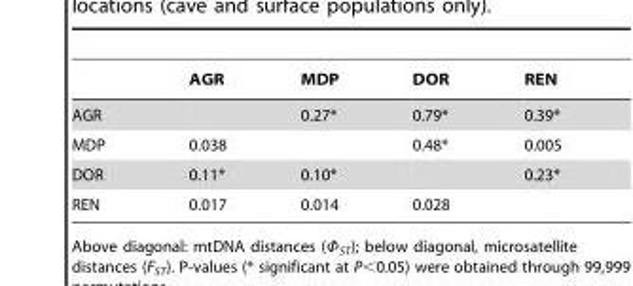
<table><thead><tr><td></td><td>AGR</td><td>MDP</td><td>DOR</td><td>REN</td></tr></thead><tbody><tr><td>AGR</td><td></td><td>0.27*</td><td>0.79*</td><td>0.39*</td></tr><tr><td>MDP</td><td>0.038</td><td></td><td>0.48*</td><td>0.005</td></tr><tr><td>DOR</td><td>0.11*</td><td>0.10*</td><td></td><td>0.23*</td></tr><tr><td>REN</td><td>0.017</td><td>0.014</td><td>0.028</td><td></td></tr></tbody></table>